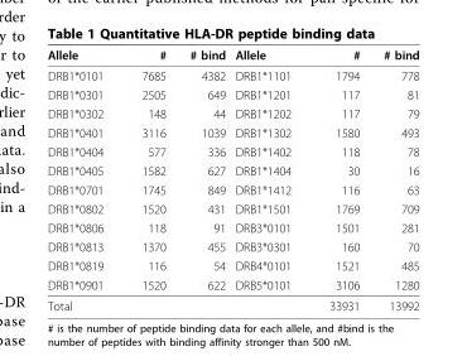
<table><thead><tr><td>Allele</td><td>#</td><td># bind</td><td>Allele</td><td>#</td><td># bind</td></tr></thead><tbody><tr><td>DRB1*0101</td><td>7685</td><td>4382</td><td>DRB1*1101</td><td>1794</td><td>778</td></tr><tr><td>DRB1*0301</td><td>2505</td><td>649</td><td>DRB1*1201</td><td>117</td><td>81</td></tr><tr><td>DRB1*0302</td><td>148</td><td>44</td><td>DRB1*1202</td><td>117</td><td>79</td></tr><tr><td>DRB1*0401</td><td>3116</td><td>1039</td><td>DRB1*1302</td><td>1580</td><td>493</td></tr><tr><td>DRB1*0404</td><td>577</td><td>336</td><td>DRB1*1402</td><td>118</td><td>78</td></tr><tr><td>DRB1*0405</td><td>1582</td><td>627</td><td>DRB1*1404</td><td>30</td><td>16</td></tr><tr><td>DRB1*0701</td><td>1745</td><td>849</td><td>DRB1*1412</td><td>116</td><td>63</td></tr><tr><td>DRB1*0802</td><td>1520</td><td>431</td><td>DRB1*1501</td><td>1769</td><td>709</td></tr><tr><td>DRB1*0806</td><td>118</td><td>91</td><td>DRB3*0101</td><td>1501</td><td>281</td></tr><tr><td>DRB1*0813</td><td>1370</td><td>455</td><td>DRB3*0301</td><td>160</td><td>70</td></tr><tr><td>DRB1*0819</td><td>116</td><td>54</td><td>DRB4*0101</td><td>1521</td><td>485</td></tr><tr><td>DRB1*0901</td><td>1520</td><td>622</td><td>DRB5*0101</td><td>3106</td><td>1280</td></tr><tr><td>Total</td><td></td><td></td><td></td><td>33931</td><td>13992</td></tr></tbody></table>